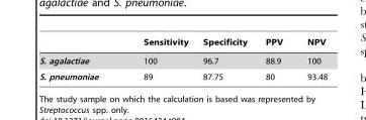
<table><thead><tr><td></td><td>Sensitivity</td><td>Specificity</td><td>PPV</td><td>NPV</td></tr></thead><tbody><tr><td>S. agalactiae</td><td>100</td><td>96.7</td><td>88.9</td><td>100</td></tr><tr><td>S. pneumoniae</td><td>89</td><td>87.75</td><td>80</td><td>93.48</td></tr></tbody></table>